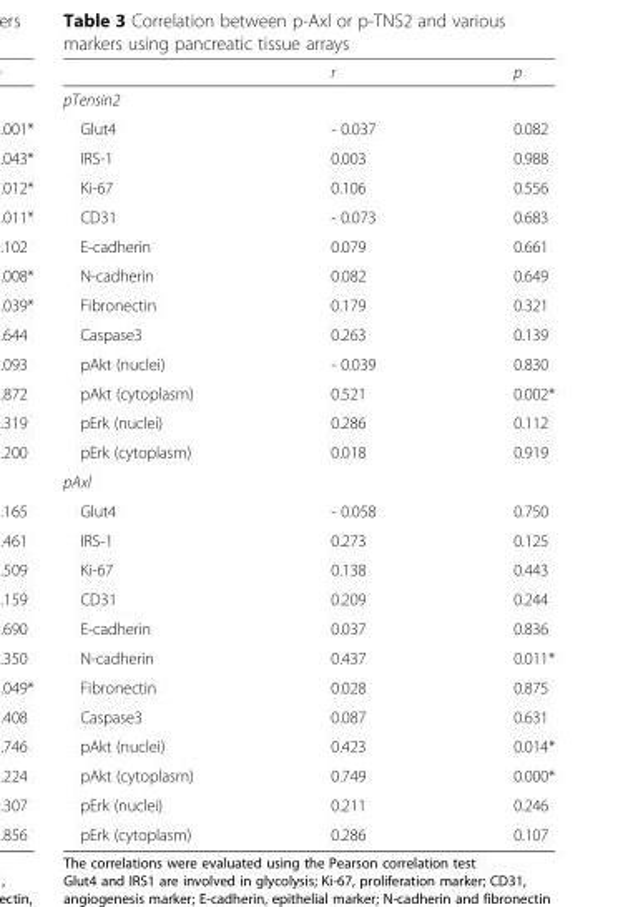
<table><thead><tr><td></td><td>r</td><td>p</td></tr></thead><tbody><tr><td colspan="3">pTensin2</td></tr><tr><td>Glut4</td><td>- 0.037</td><td>0.082</td></tr><tr><td>IRS-1</td><td>0.003</td><td>0.988</td></tr><tr><td>Ki-67</td><td>0.106</td><td>0.556</td></tr><tr><td>CD31</td><td>- 0.073</td><td>0.683</td></tr><tr><td>E-cadherin</td><td>0.079</td><td>0.661</td></tr><tr><td>N-cadherin</td><td>0.082</td><td>0.649</td></tr><tr><td>Fibronectin</td><td>0.179</td><td>0.321</td></tr><tr><td>Caspase3</td><td>0.263</td><td>0.139</td></tr><tr><td>pAkt (nuclei)</td><td>- 0.039</td><td>0.830</td></tr><tr><td>pAkt (cytoplasm)</td><td>0.521</td><td>0.002*</td></tr><tr><td>pErk (nuclei)</td><td>0.286</td><td>0.112</td></tr><tr><td>pErk (cytoplasm)</td><td>0.018</td><td>0.919</td></tr><tr><td colspan="3">pAxl</td></tr><tr><td>Glut4</td><td>- 0.058</td><td>0.750</td></tr><tr><td>IRS-1</td><td>0.273</td><td>0.125</td></tr><tr><td>Ki-67</td><td>0.138</td><td>0.443</td></tr><tr><td>CD31</td><td>0.209</td><td>0.244</td></tr><tr><td>E-cadherin</td><td>0.037</td><td>0.836</td></tr><tr><td>N-cadherin</td><td>0.437</td><td>0.011*</td></tr><tr><td>Fibronectin</td><td>0.028</td><td>0.875</td></tr><tr><td>Caspase3</td><td>0.087</td><td>0.631</td></tr><tr><td>pAkt (nuclei)</td><td>0.423</td><td>0.014*</td></tr><tr><td>pAkt (cytoplasm)</td><td>0.749</td><td>0.000*</td></tr><tr><td>pErk (nuclei)</td><td>0.211</td><td>0.246</td></tr><tr><td>pErk (cytoplasm)</td><td>0.286</td><td>0.107</td></tr></tbody></table>